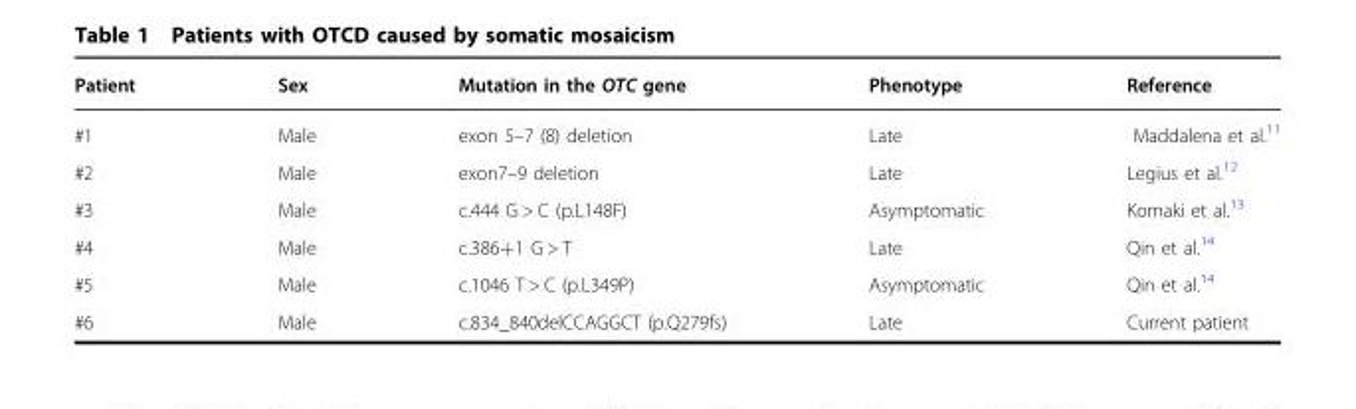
<table><thead><tr><td>Patient</td><td>Sex</td><td>Mutation in the OTC gene</td><td>Phenotype</td><td>Reference</td></tr></thead><tbody><tr><td>#1</td><td>Male</td><td>exon 5–7 (8) deletion</td><td>Late</td><td>Maddalena et al.<sup>11</sup></td></tr><tr><td>#2</td><td>Male</td><td>exon7–9 deletion</td><td>Late</td><td>Legius et al.<sup>12</sup></td></tr><tr><td>#3</td><td>Male</td><td>c.444 G &gt; C (p.L148F)</td><td>Asymptomatic</td><td>Komaki et al.<sup>13</sup></td></tr><tr><td>#4</td><td>Male</td><td>c.386+1 G &gt; T</td><td>Late</td><td>Qin et al.<sup>14</sup></td></tr><tr><td>#5</td><td>Male</td><td>c.1046 T &gt; C (p.L349P)</td><td>Asymptomatic</td><td>Qin et al.<sup>14</sup></td></tr><tr><td>#6</td><td>Male</td><td>c.834_840delCCAGGCT (p.Q279fs)</td><td>Late</td><td>Current patient</td></tr></tbody></table>